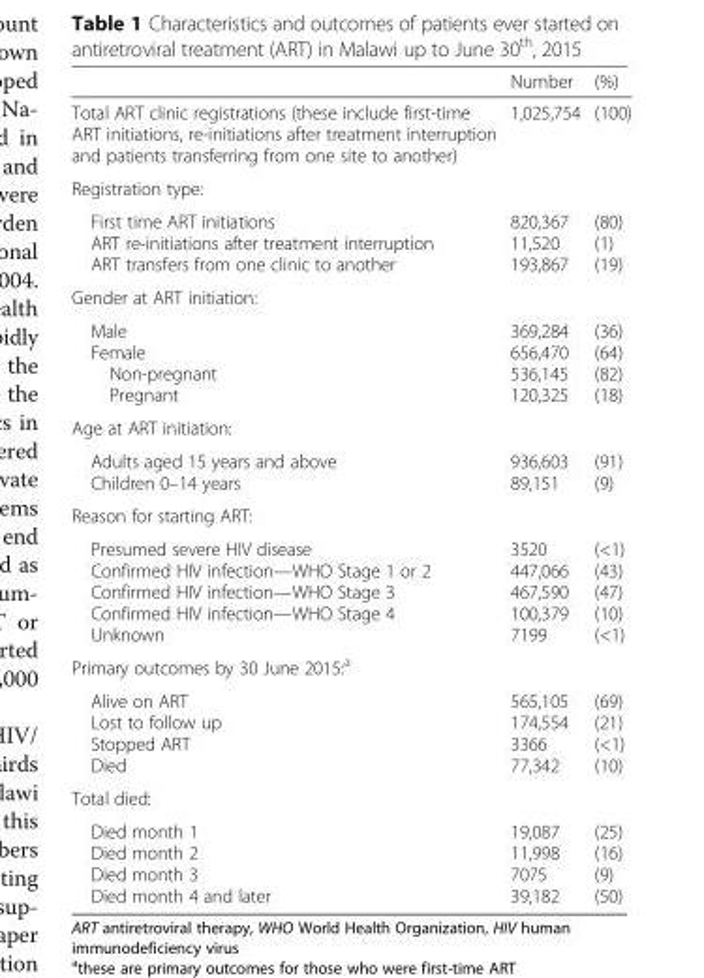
<table><thead><tr><td></td><td>Number</td><td>(%)</td></tr></thead><tbody><tr><td>Total ART clinic registrations (these include first-time ART initiations, re-initiations after treatment interruption and patients transferring from one site to another)</td><td>1,025,754</td><td>(100)</td></tr><tr><td colspan="3">Registration type:</td></tr><tr><td>First time ART initiations ART re-initiations after treatment interruption ART transfers from one clinic to another</td><td>820,367 11,520 193,867</td><td>(80) (1) (19)</td></tr><tr><td colspan="3">Gender at ART initiation:</td></tr><tr><td>Male Female Non-pregnant Pregnant</td><td>369,284 656,470 536,145 120,325</td><td>(36) (64) (82) (18)</td></tr><tr><td colspan="3">Age at ART initiation:</td></tr><tr><td>Adults aged 15 years and above Children 0–14 years</td><td>936,603 89,151</td><td>(91) (9)</td></tr><tr><td colspan="3">Reason for starting ART:</td></tr><tr><td>Presumed severe HIV disease Confirmed HIV infection—WHO Stage 1 or 2 Confirmed HIV infection—WHO Stage 3 Confirmed HIV infection—WHO Stage 4 Unknown</td><td>3520 447,066 467,590 100,379 7199</td><td>(&lt;1) (43) (47) (10) (&lt;1)</td></tr><tr><td colspan="3">Primary outcomes by 30 June 2015:<sup>a</sup></td></tr><tr><td>Alive on ART Lost to follow up Stopped ART Died</td><td>565,105 174,554 3366 77,342</td><td>(69) (21) (&lt;1) (10)</td></tr><tr><td colspan="3">Total died:</td></tr><tr><td>Died month 1 Died month 2 Died month 3 Died month 4 and later</td><td>19,087 11,998 7075 39,182</td><td>(25) (16) (9) (50)</td></tr></tbody></table>